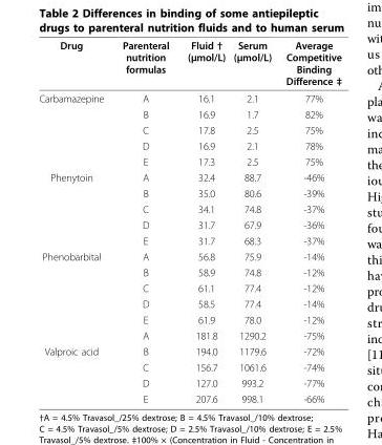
<table><thead><tr><td>Drug</td><td>Parenteral nutrition formulas</td><td>Fluid † (μmol/L)</td><td>Serum (μmol/L)</td><td>Average Competitive Binding Difference ‡</td></tr></thead><tbody><tr><td rowspan="5">Carbamazepine</td><td>A</td><td>16.1</td><td>2.1</td><td>77%</td></tr><tr><td>B</td><td>16.9</td><td>1.7</td><td>82%</td></tr><tr><td>C</td><td>17.8</td><td>2.5</td><td>75%</td></tr><tr><td>D</td><td>16.9</td><td>2.1</td><td>78%</td></tr><tr><td>E</td><td>17.3</td><td>2.5</td><td>75%</td></tr><tr><td rowspan="5">Phenytoin</td><td>A</td><td>32.4</td><td>88.7</td><td>-46%</td></tr><tr><td>B</td><td>35.0</td><td>80.6</td><td>-39%</td></tr><tr><td>C</td><td>34.1</td><td>74.8</td><td>-37%</td></tr><tr><td>D</td><td>31.7</td><td>67.9</td><td>-36%</td></tr><tr><td>E</td><td>31.7</td><td>68.3</td><td>-37%</td></tr><tr><td rowspan="6">Phenobarbital</td><td>A</td><td>56.8</td><td>75.9</td><td>-14%</td></tr><tr><td>B</td><td>58.9</td><td>74.8</td><td>-12%</td></tr><tr><td>C</td><td>61.1</td><td>77.4</td><td>-12%</td></tr><tr><td>D</td><td>58.5</td><td>77.4</td><td>-14%</td></tr><tr><td>E</td><td>61.9</td><td>78.0</td><td>-12%</td></tr><tr><td>A</td><td>181.8</td><td>1290.2</td><td>-75%</td></tr><tr><td rowspan="4">Valproic acid</td><td>B</td><td>194.0</td><td>1179.6</td><td>-72%</td></tr><tr><td>C</td><td>156.7</td><td>1061.6</td><td>-74%</td></tr><tr><td>D</td><td>127.0</td><td>993.2</td><td>-77%</td></tr><tr><td>E</td><td>207.6</td><td>998.1</td><td>-66%</td></tr></tbody></table>